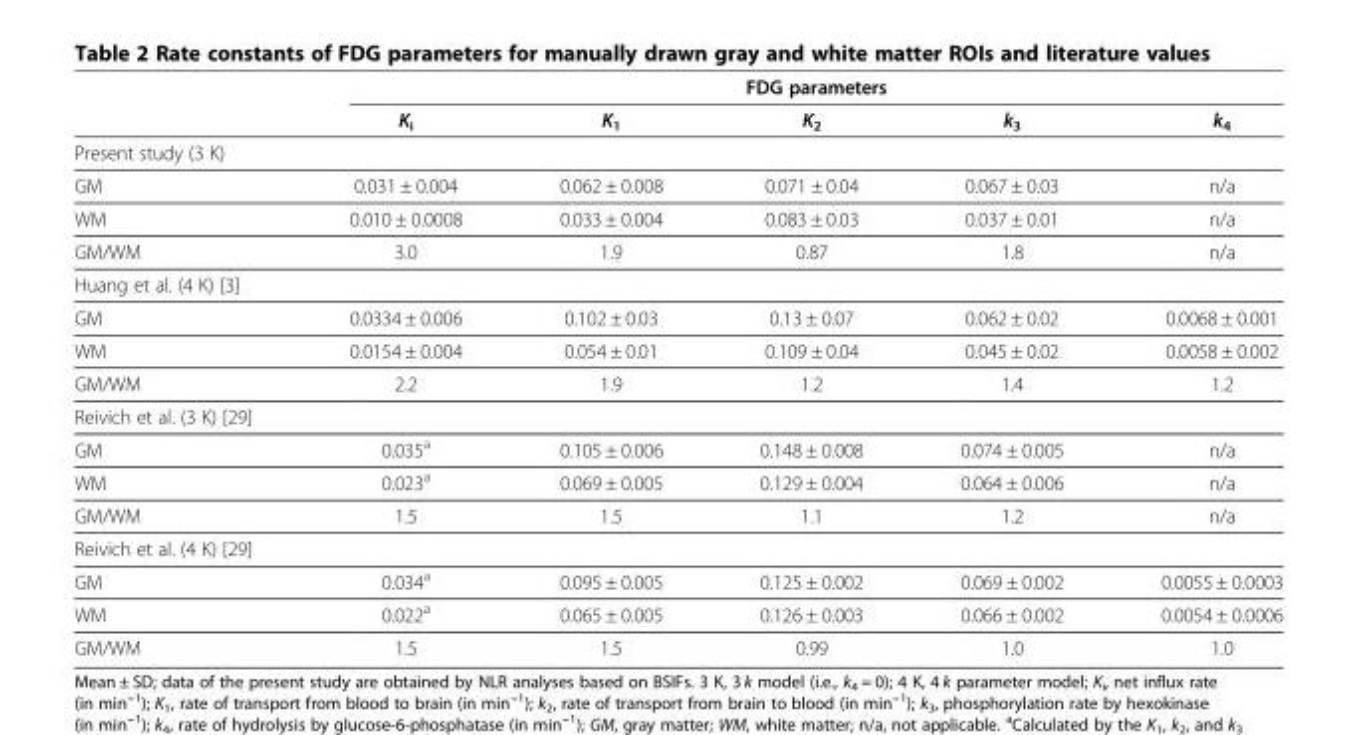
<table><thead><tr><td rowspan="2"></td><td colspan="5">FDG parameters</td></tr><tr><td>K<sub>i</sub></td><td>K<sub>1</sub></td><td>K<sub>2</sub></td><td>k<sub>3</sub></td><td>k<sub>4</sub></td></tr></thead><tbody><tr><td colspan="6">Present study (3 K)</td></tr><tr><td>GM</td><td>0.031 ± 0.004</td><td>0.062 ± 0.008</td><td>0.071 ± 0.04</td><td>0.067 ± 0.03</td><td>n/a</td></tr><tr><td>WM</td><td>0.010 ± 0.0008</td><td>0.033 ± 0.004</td><td>0.083 ± 0.03</td><td>0.037 ± 0.01</td><td>n/a</td></tr><tr><td>GM/WM</td><td>3.0</td><td>1.9</td><td>0.87</td><td>1.8</td><td>n/a</td></tr><tr><td colspan="6">Huang et al. (4 K) [3]</td></tr><tr><td>GM</td><td>0.0334 ± 0.006</td><td>0.102 ± 0.03</td><td>0.13 ± 0.07</td><td>0.062 ± 0.02</td><td>0.0068 ± 0.001</td></tr><tr><td>WM</td><td>0.0154 ± 0.004</td><td>0.054 ± 0.01</td><td>0.109 ± 0.04</td><td>0.045 ± 0.02</td><td>0.0058 ± 0.002</td></tr><tr><td>GM/WM</td><td>2.2</td><td>1.9</td><td>1.2</td><td>1.4</td><td>1.2</td></tr><tr><td colspan="6">Reivich et al. (3 K) [29]</td></tr><tr><td>GM</td><td>0.035<sup>a</sup></td><td>0.105 ± 0.006</td><td>0.148 ± 0.008</td><td>0.074 ± 0.005</td><td>n/a</td></tr><tr><td>WM</td><td>0.023<sup>a</sup></td><td>0.069 ± 0.005</td><td>0.129 ± 0.004</td><td>0.064 ± 0.006</td><td>n/a</td></tr><tr><td>GM/WM</td><td>1.5</td><td>1.5</td><td>1.1</td><td>1.2</td><td>n/a</td></tr><tr><td colspan="6">Reivich et al. (4 K) [29]</td></tr><tr><td>GM</td><td>0.034<sup>a</sup></td><td>0.095 ± 0.005</td><td>0.125 ± 0.002</td><td>0.069 ± 0.002</td><td>0.0055 ± 0.0003</td></tr><tr><td>WM</td><td>0.022<sup>a</sup></td><td>0.065 ± 0.005</td><td>0.126 ± 0.003</td><td>0.066 ± 0.002</td><td>0.0054 ± 0.0006</td></tr><tr><td>GM/WM</td><td>1.5</td><td>1.5</td><td>0.99</td><td>1.0</td><td>1.0</td></tr></tbody></table>